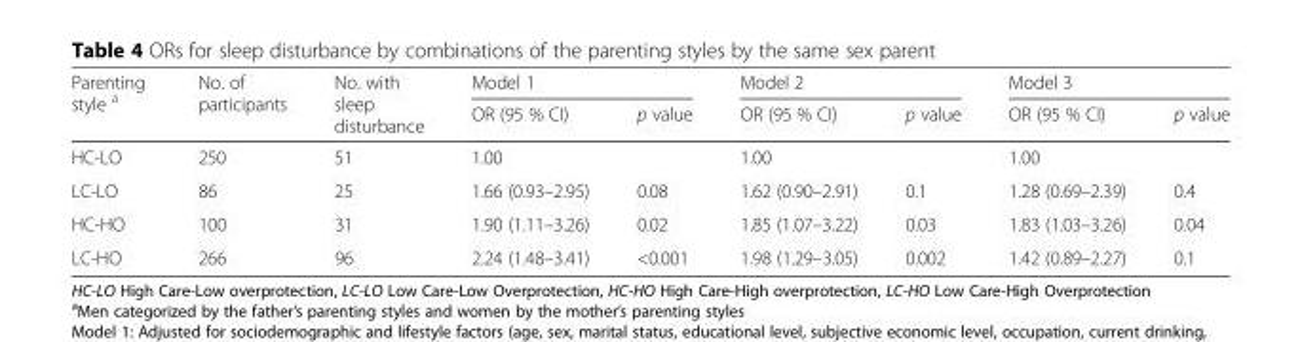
<table><thead><tr><td rowspan="2">Parenting style <sup>a</sup></td><td rowspan="2">No. of participants</td><td rowspan="2">No. with sleep disturbance</td><td colspan="2">Model 1</td><td colspan="2">Model 2</td><td colspan="2">Model 3</td></tr><tr><td>OR (95 % CI)</td><td>p value</td><td>OR (95 % CI)</td><td>p value</td><td>OR (95 % CI)</td><td>p value</td></tr></thead><tbody><tr><td>HC-LO</td><td>250</td><td>51</td><td>1.00</td><td></td><td>1.00</td><td></td><td>1.00</td><td></td></tr><tr><td>LC-LO</td><td>86</td><td>25</td><td>1.66 (0.93–2.95)</td><td>0.08</td><td>1.62 (0.90–2.91)</td><td>0.1</td><td>1.28 (0.69–2.39)</td><td>0.4</td></tr><tr><td>HC-HO</td><td>100</td><td>31</td><td>1.90 (1.11–3.26)</td><td>0.02</td><td>1.85 (1.07–3.22)</td><td>0.03</td><td>1.83 (1.03–3.26)</td><td>0.04</td></tr><tr><td>LC-HO</td><td>266</td><td>96</td><td>2.24 (1.48–3.41)</td><td>&lt;0.001</td><td>1.98 (1.29–3.05)</td><td>0.002</td><td>1.42 (0.89–2.27)</td><td>0.1</td></tr></tbody></table>